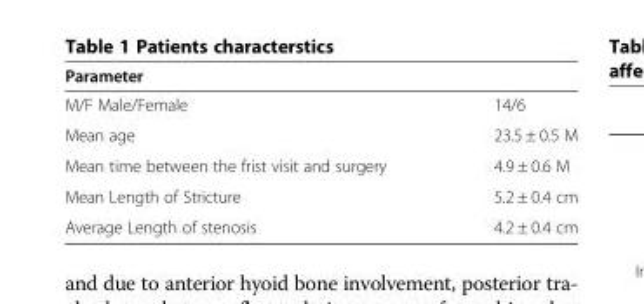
<table><thead><tr><td colspan="2">Parameter</td></tr><tr><td>M/F Male/Female</td><td>14/6</td></tr></thead><tbody><tr><td>Mean age</td><td>23.5 ± 0.5 M</td></tr><tr><td>Mean time between the frist visit and surgery</td><td>4.9 ± 0.6 M</td></tr><tr><td>Mean Length of Stricture</td><td>5.2 ± 0.4 cm</td></tr><tr><td>Average Length of stenosis</td><td>4.2 ± 0.4 cm</td></tr></tbody></table>